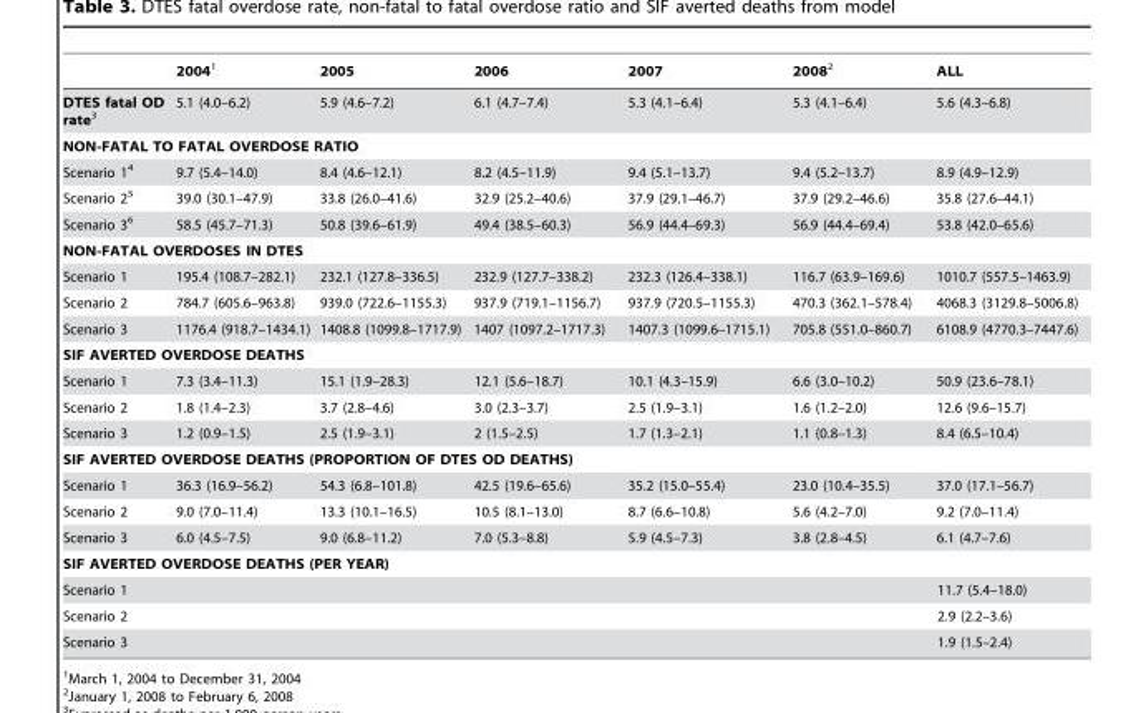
<table><thead><tr><td></td><td>2004<sup>1</sup></td><td>2005</td><td>2006</td><td>2007</td><td>2008<sup>2</sup></td><td>ALL</td></tr></thead><tbody><tr><td>DTES fatal OD rate3</td><td>5.1 (4.0–6.2)</td><td>5.9 (4.6–7.2)</td><td>6.1 (4.7–7.4)</td><td>5.3 (4.1–6.4)</td><td>5.3 (4.1–6.4)</td><td>5.6 (4.3–6.8)</td></tr><tr><td colspan="7">NON-FATAL TO FATAL OVERDOSE RATIO</td></tr><tr><td>Scenario 1<sup>4</sup></td><td>9.7 (5.4–14.0)</td><td>8.4 (4.6–12.1)</td><td>8.2 (4.5–11.9)</td><td>9.4 (5.1–13.7)</td><td>9.4 (5.2–13.7)</td><td>8.9 (4.9–12.9)</td></tr><tr><td>Scenario 2<sup>5</sup></td><td>39.0 (30.1–47.9)</td><td>33.8 (26.0–41.6)</td><td>32.9 (25.2–40.6)</td><td>37.9 (29.1–46.7)</td><td>37.9 (29.2–46.6)</td><td>35.8 (27.6–44.1)</td></tr><tr><td>Scenario 3<sup>6</sup></td><td>58.5 (45.7–71.3)</td><td>50.8 (39.6–61.9)</td><td>49.4 (38.5–60.3)</td><td>56.9 (44.4–69.3)</td><td>56.9 (44.4–69.4)</td><td>53.8 (42.0–65.6)</td></tr><tr><td colspan="7">NON-FATAL OVERDOSES IN DTES</td></tr><tr><td>Scenario 1</td><td>195.4 (108.7–282.1)</td><td>232.1 (127.8–336.5)</td><td>232.9 (127.7–338.2)</td><td>232.3 (126.4–338.1)</td><td>116.7 (63.9–169.6)</td><td>1010.7 (557.5–1463.9)</td></tr><tr><td>Scenario 2</td><td>784.7 (605.6–963.8)</td><td>939.0 (722.6–1155.3)</td><td>937.9 (719.1–1156.7)</td><td>937.9 (720.5–1155.3)</td><td>470.3 (362.1–578.4)</td><td>4068.3 (3129.8–5006.8)</td></tr><tr><td>Scenario 3</td><td>1176.4 (918.7–1434.1)</td><td>1408.8 (1099.8–1717.9)</td><td>1407 (1097.2–1717.3)</td><td>1407.3 (1099.6–1715.1)</td><td>705.8 (551.0–860.7)</td><td>6108.9 (4770.3–7447.6)</td></tr><tr><td colspan="7">SIF AVERTED OVERDOSE DEATHS</td></tr><tr><td>Scenario 1</td><td>7.3 (3.4–11.3)</td><td>15.1 (1.9–28.3)</td><td>12.1 (5.6–18.7)</td><td>10.1 (4.3–15.9)</td><td>6.6 (3.0–10.2)</td><td>50.9 (23.6–78.1)</td></tr><tr><td>Scenario 2</td><td>1.8 (1.4–2.3)</td><td>3.7 (2.8–4.6)</td><td>3.0 (2.3–3.7)</td><td>2.5 (1.9–3.1)</td><td>1.6 (1.2–2.0)</td><td>12.6 (9.6–15.7)</td></tr><tr><td>Scenario 3</td><td>1.2 (0.9–1.5)</td><td>2.5 (1.9–3.1)</td><td>2 (1.5–2.5)</td><td>1.7 (1.3–2.1)</td><td>1.1 (0.8–1.3)</td><td>8.4 (6.5–10.4)</td></tr><tr><td colspan="7">SIF AVERTED OVERDOSE DEATHS (PROPORTION OF DTES OD DEATHS)</td></tr><tr><td>Scenario 1</td><td>36.3 (16.9–56.2)</td><td>54.3 (6.8–101.8)</td><td>42.5 (19.6–65.6)</td><td>35.2 (15.0–55.4)</td><td>23.0 (10.4–35.5)</td><td>37.0 (17.1–56.7)</td></tr><tr><td>Scenario 2</td><td>9.0 (7.0–11.4)</td><td>13.3 (10.1–16.5)</td><td>10.5 (8.1–13.0)</td><td>8.7 (6.6–10.8)</td><td>5.6 (4.2–7.0)</td><td>9.2 (7.0–11.4)</td></tr><tr><td>Scenario 3</td><td>6.0 (4.5–7.5)</td><td>9.0 (6.8–11.2)</td><td>7.0 (5.3–8.8)</td><td>5.9 (4.5–7.3)</td><td>3.8 (2.8–4.5)</td><td>6.1 (4.7–7.6)</td></tr><tr><td colspan="7">SIF AVERTED OVERDOSE DEATHS (PER YEAR)</td></tr><tr><td>Scenario 1</td><td colspan="6">11.7 (5.4–18.0)</td></tr><tr><td>Scenario 2</td><td colspan="6">2.9 (2.2–3.6)</td></tr><tr><td>Scenario 3</td><td colspan="6">1.9 (1.5–2.4)</td></tr></tbody></table>